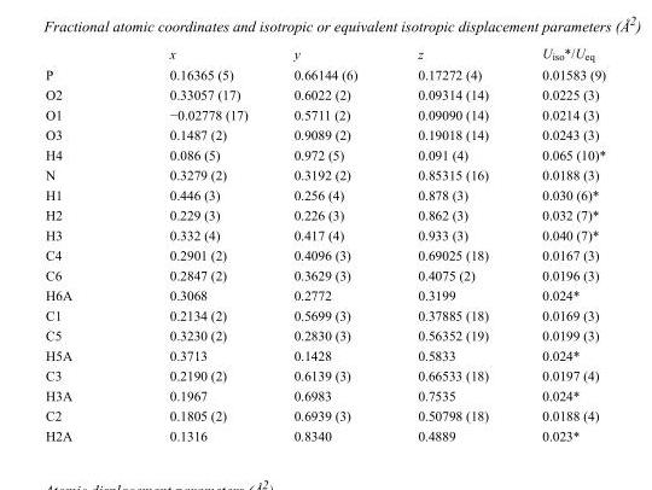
<table><thead><tr><td></td><td>x</td><td>y</td><td>z</td><td>U<sub>iso</sub>*/U<sub>eq</sub></td></tr></thead><tbody><tr><td>P</td><td>0.16365 (5)</td><td>0.66144 (6)</td><td>0.17272 (4)</td><td>0.01583 (9)</td></tr><tr><td>O2</td><td>0.33057 (17)</td><td>0.6022 (2)</td><td>0.09314 (14)</td><td>0.0225 (3)</td></tr><tr><td>O1</td><td>−0.02778 (17)</td><td>0.5711 (2)</td><td>0.09090 (14)</td><td>0.0214 (3)</td></tr><tr><td>O3</td><td>0.1487 (2)</td><td>0.9089 (2)</td><td>0.19018 (14)</td><td>0.0243 (3)</td></tr><tr><td>H4</td><td>0.086 (5)</td><td>0.972 (5)</td><td>0.091 (4)</td><td>0.065 (10)*</td></tr><tr><td>N</td><td>0.3279 (2)</td><td>0.3192 (2)</td><td>0.85315 (16)</td><td>0.0188 (3)</td></tr><tr><td>H1</td><td>0.446 (3)</td><td>0.256 (4)</td><td>0.878 (3)</td><td>0.030 (6)*</td></tr><tr><td>H2</td><td>0.229 (3)</td><td>0.226 (3)</td><td>0.862 (3)</td><td>0.032 (7)*</td></tr><tr><td>H3</td><td>0.332 (4)</td><td>0.417 (4)</td><td>0.933 (3)</td><td>0.040 (7)*</td></tr><tr><td>C4</td><td>0.2901 (2)</td><td>0.4096 (3)</td><td>0.69025 (18)</td><td>0.0167 (3)</td></tr><tr><td>C6</td><td>0.2847 (2)</td><td>0.3629 (3)</td><td>0.4075 (2)</td><td>0.0196 (3)</td></tr><tr><td>H6A</td><td>0.3068</td><td>0.2772</td><td>0.3199</td><td>0.024*</td></tr><tr><td>C1</td><td>0.2134 (2)</td><td>0.5699 (3)</td><td>0.37885 (18)</td><td>0.0169 (3)</td></tr><tr><td>C5</td><td>0.3230 (2)</td><td>0.2830 (3)</td><td>0.56352 (19)</td><td>0.0199 (3)</td></tr><tr><td>H5A</td><td>0.3713</td><td>0.1428</td><td>0.5833</td><td>0.024*</td></tr><tr><td>C3</td><td>0.2190 (2)</td><td>0.6139 (3)</td><td>0.66533 (18)</td><td>0.0197 (4)</td></tr><tr><td>H3A</td><td>0.1967</td><td>0.6983</td><td>0.7535</td><td>0.024*</td></tr><tr><td>C2</td><td>0.1805 (2)</td><td>0.6939 (3)</td><td>0.50798 (18)</td><td>0.0188 (4)</td></tr><tr><td>H2A</td><td>0.1316</td><td>0.8340</td><td>0.4889</td><td>0.023*</td></tr></tbody></table>